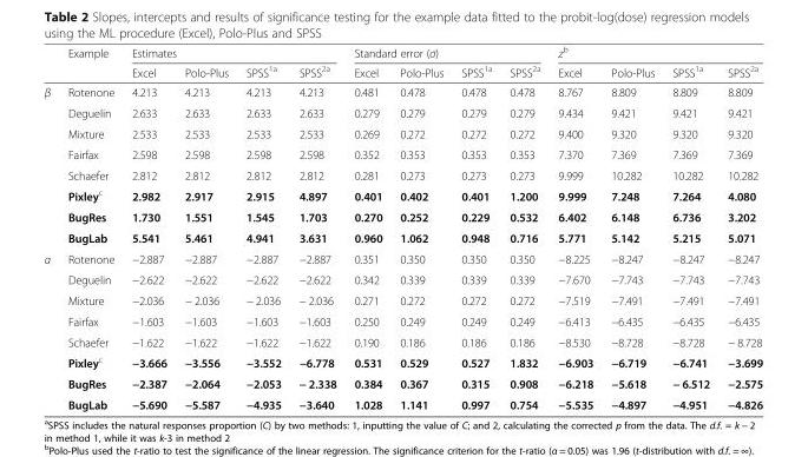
<table><thead><tr><td rowspan="2"></td><td rowspan="2">Example</td><td colspan="4">Estimates</td><td colspan="4">Standard error (σ)</td><td colspan="4">z<sup>b</sup></td></tr><tr><td>Excel</td><td>Polo-Plus</td><td>SPSS<sup>1a</sup></td><td>SPSS<sup>2a</sup></td><td>Excel</td><td>Polo-Plus</td><td>SPSS<sup>1a</sup></td><td>SPSS<sup>2a</sup></td><td>Excel</td><td>Polo-Plus</td><td>SPSS<sup>1a</sup></td><td>SPSS<sup>2a</sup></td></tr></thead><tbody><tr><td rowspan="8">β</td><td>Rotenone</td><td>4.213</td><td>4.213</td><td>4.213</td><td>4.213</td><td>0.481</td><td>0.478</td><td>0.478</td><td>0.478</td><td>8.767</td><td>8.809</td><td>8.809</td><td>8.809</td></tr><tr><td>Deguelin</td><td>2.633</td><td>2.633</td><td>2.633</td><td>2.633</td><td>0.279</td><td>0.279</td><td>0.279</td><td>0.279</td><td>9.434</td><td>9.421</td><td>9.421</td><td>9.421</td></tr><tr><td>Mixture</td><td>2.533</td><td>2.533</td><td>2.533</td><td>2.533</td><td>0.269</td><td>0.272</td><td>0.272</td><td>0.272</td><td>9.400</td><td>9.320</td><td>9.320</td><td>9.320</td></tr><tr><td>Fairfax</td><td>2.598</td><td>2.598</td><td>2.598</td><td>2.598</td><td>0.352</td><td>0.353</td><td>0.353</td><td>0.353</td><td>7.370</td><td>7.369</td><td>7.369</td><td>7.369</td></tr><tr><td>Schaefer</td><td>2.812</td><td>2.812</td><td>2.812</td><td>2.812</td><td>0.281</td><td>0.273</td><td>0.273</td><td>0.273</td><td>9.999</td><td>10.282</td><td>10.282</td><td>10.282</td></tr><tr><td>Pixley<sup>c</sup></td><td>2.982</td><td>2.917</td><td>2.915</td><td>4.897</td><td>0.401</td><td>0.402</td><td>0.401</td><td>1.200</td><td>9.999</td><td>7.248</td><td>7.264</td><td>4.080</td></tr><tr><td>BugRes</td><td>1.730</td><td>1.551</td><td>1.545</td><td>1.703</td><td>0.270</td><td>0.252</td><td>0.229</td><td>0.532</td><td>6.402</td><td>6.148</td><td>6.736</td><td>3.202</td></tr><tr><td>BugLab</td><td>5.541</td><td>5.461</td><td>4.941</td><td>3.631</td><td>0.960</td><td>1.062</td><td>0.948</td><td>0.716</td><td>5.771</td><td>5.142</td><td>5.215</td><td>5.071</td></tr><tr><td rowspan="8">α</td><td>Rotenone</td><td>−2.887</td><td>−2.887</td><td>−2.887</td><td>−2.887</td><td>0.351</td><td>0.350</td><td>0.350</td><td>0.350</td><td>−8.225</td><td>−8.247</td><td>−8.247</td><td>−8.247</td></tr><tr><td>Deguelin</td><td>−2.622</td><td>−2.622</td><td>−2.622</td><td>−2.622</td><td>0.342</td><td>0.339</td><td>0.339</td><td>0.339</td><td>−7.670</td><td>−7.743</td><td>−7.743</td><td>−7.743</td></tr><tr><td>Mixture</td><td>−2.036</td><td>− 2.036</td><td>− 2.036</td><td>− 2.036</td><td>0.271</td><td>0.272</td><td>0.272</td><td>0.272</td><td>−7.519</td><td>−7.491</td><td>−7.491</td><td>−7.491</td></tr><tr><td>Fairfax</td><td>−1.603</td><td>−1.603</td><td>−1.603</td><td>−1.603</td><td>0.250</td><td>0.249</td><td>0.249</td><td>0.249</td><td>−6.413</td><td>−6.435</td><td>−6.435</td><td>−6.435</td></tr><tr><td>Schaefer</td><td>−1.622</td><td>−1.622</td><td>−1.622</td><td>−1.622</td><td>0.190</td><td>0.186</td><td>0.186</td><td>0.186</td><td>−8.530</td><td>−8.728</td><td>−8.728</td><td>− 8.728</td></tr><tr><td>Pixley<sup>c</sup></td><td>−3.666</td><td>−3.556</td><td>−3.552</td><td>−6.778</td><td>0.531</td><td>0.529</td><td>0.527</td><td>1.832</td><td>−6.903</td><td>−6.719</td><td>−6.741</td><td>−3.699</td></tr><tr><td>BugRes</td><td>−2.387</td><td>−2.064</td><td>−2.053</td><td>− 2.338</td><td>0.384</td><td>0.367</td><td>0.315</td><td>0.908</td><td>−6.218</td><td>−5.618</td><td>− 6.512</td><td>−2.575</td></tr><tr><td>BugLab</td><td>−5.690</td><td>−5.587</td><td>−4.935</td><td>−3.640</td><td>1.028</td><td>1.141</td><td>0.997</td><td>0.754</td><td>−5.535</td><td>−4.897</td><td>−4.951</td><td>−4.826</td></tr></tbody></table>